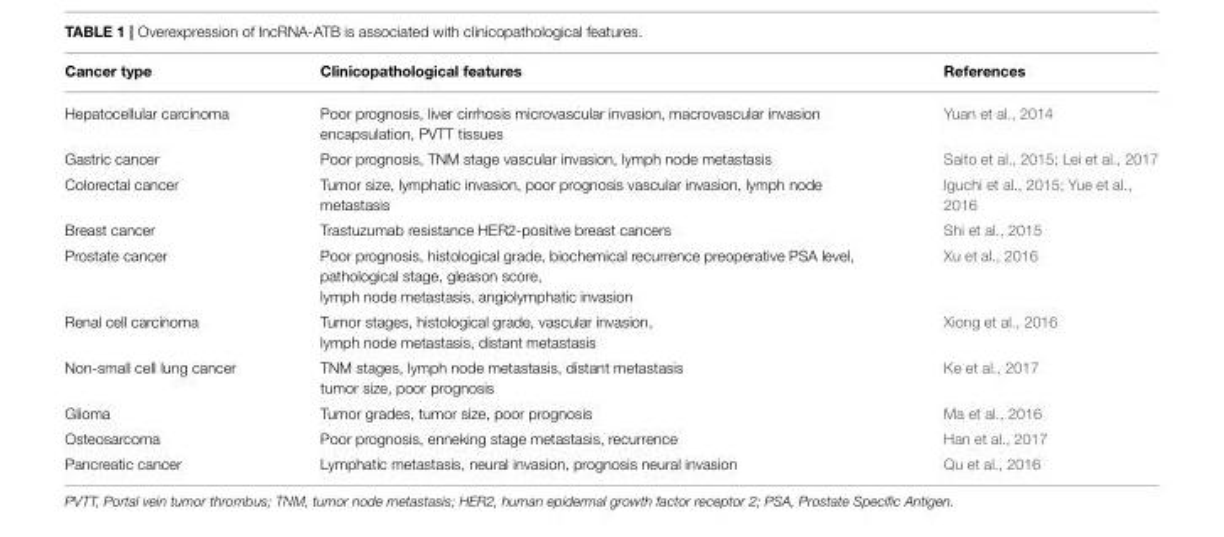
<table><thead><tr><td>Cancer type</td><td>Clinicopathological features</td><td>References</td></tr></thead><tbody><tr><td>Hepatocellular carcinoma</td><td>Poor prognosis, liver cirrhosis microvascular invasion, macrovascular invasion encapsulation, PVTT tissues</td><td>Yuan et al., 2014</td></tr><tr><td>Gastric cancer</td><td>Poor prognosis, TNM stage vascular invasion, lymph node metastasis</td><td>Saito et al., 2015; Lei et al., 2017</td></tr><tr><td>Colorectal cancer</td><td>Tumor size, lymphatic invasion, poor prognosis vascular invasion, lymph node metastasis</td><td>Iguchi et al., 2015; Yue et al., 2016</td></tr><tr><td>Breast cancer</td><td>Trastuzumab resistance HER2-positive breast cancers</td><td>Shi et al., 2015</td></tr><tr><td>Prostate cancer</td><td>Poor prognosis, histological grade, biochemical recurrence preoperative PSA level, pathological stage, gleason score, lymph node metastasis, angiolymphatic invasion</td><td>Xu et al., 2016</td></tr><tr><td>Renal cell carcinoma</td><td>Tumor stages, histological grade, vascular invasion, lymph node metastasis, distant metastasis</td><td>Xiong et al., 2016</td></tr><tr><td>Non-small cell lung cancer</td><td>TNM stages, lymph node metastasis, distant metastasis tumor size, poor prognosis</td><td>Ke et al., 2017</td></tr><tr><td>Glioma</td><td>Tumor grades, tumor size, poor prognosis</td><td>Ma et al., 2016</td></tr><tr><td>Osteosarcoma</td><td>Poor prognosis, enneking stage metastasis, recurrence</td><td>Han et al., 2017</td></tr><tr><td>Pancreatic cancer</td><td>Lymphatic metastasis, neural invasion, prognosis neural invasion</td><td>Qu et al., 2016</td></tr></tbody></table>